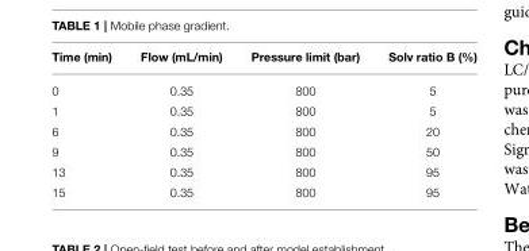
<table><thead><tr><td>Time (min)</td><td>Flow (mL/min)</td><td>Pressure limit (bar)</td><td>Solv ratio B (%)</td></tr></thead><tbody><tr><td>0</td><td>0.35</td><td>800</td><td>5</td></tr><tr><td>1</td><td>0.35</td><td>800</td><td>5</td></tr><tr><td>6</td><td>0.35</td><td>800</td><td>20</td></tr><tr><td>9</td><td>0.35</td><td>800</td><td>50</td></tr><tr><td>13</td><td>0.35</td><td>800</td><td>95</td></tr><tr><td>15</td><td>0.35</td><td>800</td><td>95</td></tr></tbody></table>